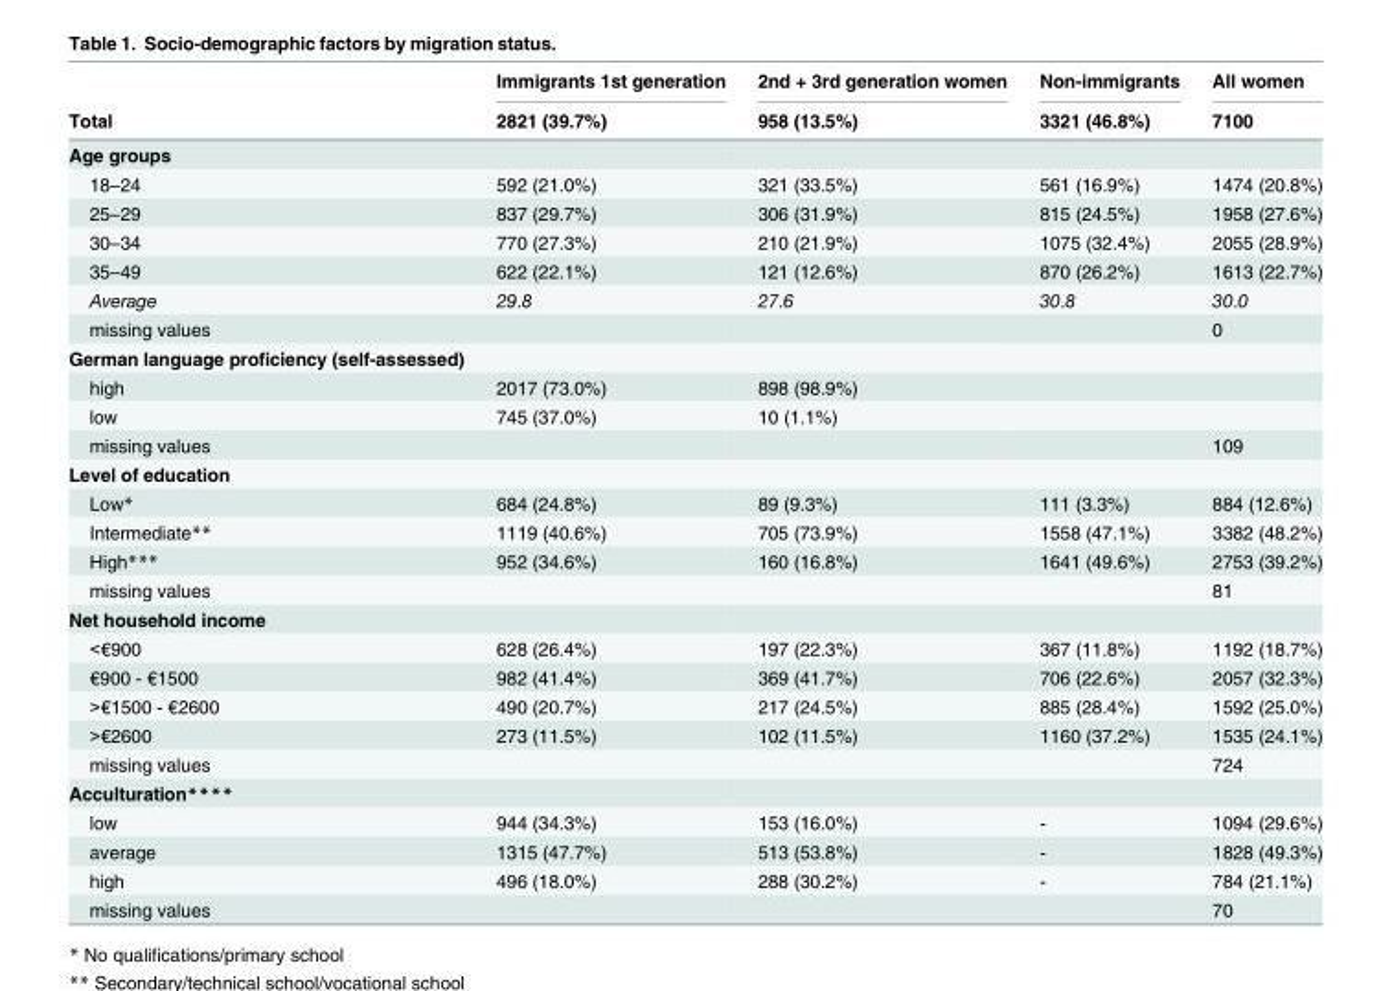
<table><thead><tr><td rowspan="2">Total</td><td rowspan="2">Immigrants 1st generation 2821 (39.7%)</td><td rowspan="2">2nd + 3rd generation women 958 (13.5%)</td><td rowspan="2">Non-immigrants 3321 (46.8%)</td><td rowspan="2">All women 7100</td></tr><tr></tr></thead><tbody><tr><td colspan="5">Age groups</td></tr><tr><td>18–24</td><td>592 (21.0%)</td><td>321 (33.5%)</td><td>561 (16.9%)</td><td>1474 (20.8%)</td></tr><tr><td>25–29</td><td>837 (29.7%)</td><td>306 (31.9%)</td><td>815 (24.5%)</td><td>1958 (27.6%)</td></tr><tr><td>30–34</td><td>770 (27.3%)</td><td>210 (21.9%)</td><td>1075 (32.4%)</td><td>2055 (28.9%)</td></tr><tr><td>35–49</td><td>622 (22.1%)</td><td>121 (12.6%)</td><td>870 (26.2%)</td><td>1613 (22.7%)</td></tr><tr><td>Average</td><td>29.8</td><td>27.6</td><td>30.8</td><td>30.0</td></tr><tr><td>missing values</td><td></td><td></td><td></td><td>0</td></tr><tr><td colspan="5">German language proficiency (self-assessed)</td></tr><tr><td>high</td><td>2017 (73.0%)</td><td>898 (98.9%)</td><td></td><td></td></tr><tr><td>low</td><td>745 (37.0%)</td><td>10 (1.1%)</td><td></td><td></td></tr><tr><td>missing values</td><td></td><td></td><td></td><td>109</td></tr><tr><td colspan="5">Level of education</td></tr><tr><td>Low*</td><td>684 (24.8%)</td><td>89 (9.3%)</td><td>111 (3.3%)</td><td>884 (12.6%)</td></tr><tr><td>Intermediate**</td><td>1119 (40.6%)</td><td>705 (73.9%)</td><td>1558 (47.1%)</td><td>3382 (48.2%)</td></tr><tr><td>High***</td><td>952 (34.6%)</td><td>160 (16.8%)</td><td>1641 (49.6%)</td><td>2753 (39.2%)</td></tr><tr><td>missing values</td><td></td><td></td><td></td><td>81</td></tr><tr><td colspan="5">Net household income</td></tr><tr><td>&lt;€900</td><td>628 (26.4%)</td><td>197 (22.3%)</td><td>367 (11.8%)</td><td>1192 (18.7%)</td></tr><tr><td>€900 - €1500</td><td>982 (41.4%)</td><td>369 (41.7%)</td><td>706 (22.6%)</td><td>2057 (32.3%)</td></tr><tr><td>&gt;€1500 - €2600</td><td>490 (20.7%)</td><td>217 (24.5%)</td><td>885 (28.4%)</td><td>1592 (25.0%)</td></tr><tr><td>&gt;€2600</td><td>273 (11.5%)</td><td>102 (11.5%)</td><td>1160 (37.2%)</td><td>1535 (24.1%)</td></tr><tr><td>missing values</td><td></td><td></td><td></td><td>724</td></tr><tr><td colspan="5">Acculturation****</td></tr><tr><td>low</td><td>944 (34.3%)</td><td>153 (16.0%)</td><td>-</td><td>1094 (29.6%)</td></tr><tr><td>average</td><td>1315 (47.7%)</td><td>513 (53.8%)</td><td>-</td><td>1828 (49.3%)</td></tr><tr><td>high</td><td>496 (18.0%)</td><td>288 (30.2%)</td><td>-</td><td>784 (21.1%)</td></tr><tr><td>missing values</td><td></td><td></td><td></td><td>70</td></tr></tbody></table>